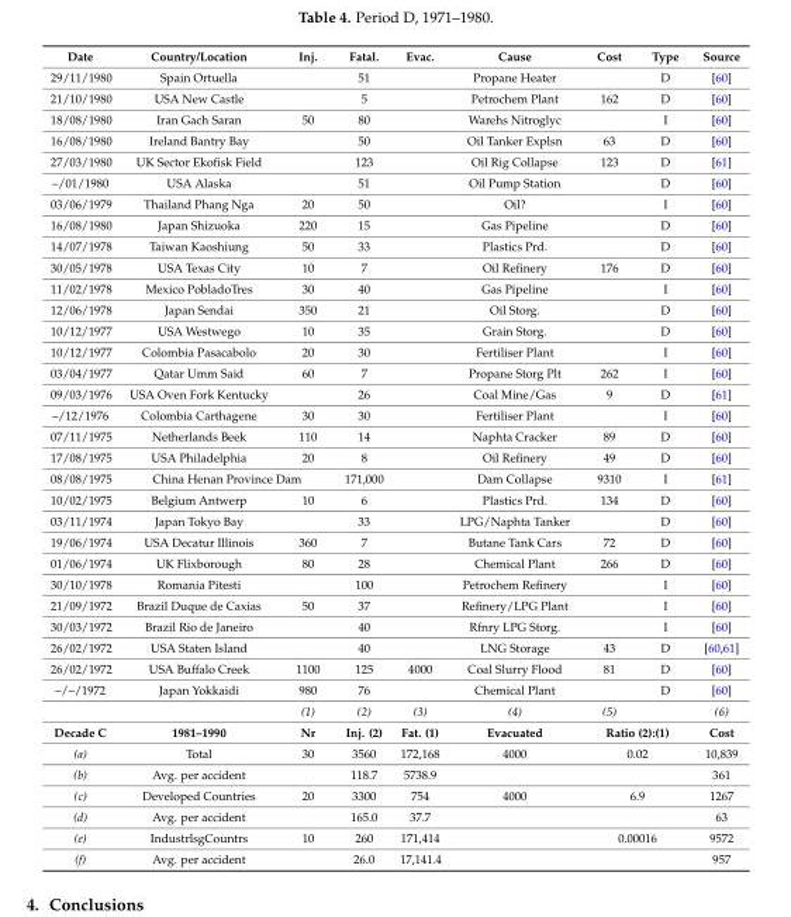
<table><tbody><tr><td>Date</td><td>Country/Location</td><td>Inj.</td><td>Fatal.</td><td>Evac.</td><td>Cause</td><td>Cost</td><td>Type</td><td>Source</td></tr><tr><td>29/11/1980</td><td>Spain Ortuella</td><td></td><td>51</td><td></td><td>Propane Heater</td><td></td><td>D</td><td>[60]</td></tr><tr><td>21/10/1980</td><td>USA New Castle</td><td></td><td>5</td><td></td><td>Petrochem Plant</td><td>162</td><td>D</td><td>[60]</td></tr><tr><td>18/08/1980</td><td>Iran Gach Saran</td><td>50</td><td>80</td><td></td><td>Warehs Nitroglyc</td><td></td><td>I</td><td>[60]</td></tr><tr><td>16/08/1980</td><td>Ireland Bantry Bay</td><td></td><td>50</td><td></td><td>Oil Tanker Explsn</td><td>63</td><td>D</td><td>[60]</td></tr><tr><td>27/03/1980</td><td>UK Sector Ekofisk Field</td><td></td><td>123</td><td></td><td>Oil Rig Collapse</td><td>123</td><td>D</td><td>[61]</td></tr><tr><td>–/01/1980</td><td>USA Alaska</td><td></td><td>51</td><td></td><td>Oil Pump Station</td><td></td><td>D</td><td>[60]</td></tr><tr><td>03/06/1979</td><td>Thailand Phang Nga</td><td>20</td><td>50</td><td></td><td>Oil?</td><td></td><td>I</td><td>[60]</td></tr><tr><td>16/08/1980</td><td>Japan Shizuoka</td><td>220</td><td>15</td><td></td><td>Gas Pipeline</td><td></td><td>D</td><td>[60]</td></tr><tr><td>14/07/1978</td><td>Taiwan Kaoshiung</td><td>50</td><td>33</td><td></td><td>Plastics Prd.</td><td></td><td>D</td><td>[60]</td></tr><tr><td>30/05/1978</td><td>USA Texas City</td><td>10</td><td>7</td><td></td><td>Oil Refinery</td><td>176</td><td>D</td><td>[60]</td></tr><tr><td>11/02/1978</td><td>Mexico PobladoTres</td><td>30</td><td>40</td><td></td><td>Gas Pipeline</td><td></td><td>I</td><td>[60]</td></tr><tr><td>12/06/1978</td><td>Japan Sendai</td><td>350</td><td>21</td><td></td><td>Oil Storg.</td><td></td><td>D</td><td>[60]</td></tr><tr><td>10/12/1977</td><td>USA Westwego</td><td>10</td><td>35</td><td></td><td>Grain Storg.</td><td></td><td>D</td><td>[60]</td></tr><tr><td>10/12/1977</td><td>Colombia Pasacabolo</td><td>20</td><td>30</td><td></td><td>Fertiliser Plant</td><td></td><td>I</td><td>[60]</td></tr><tr><td>03/04/1977</td><td>Qatar Umm Said</td><td>60</td><td>7</td><td></td><td>Propane Storg Plt</td><td>262</td><td>I</td><td>[60]</td></tr><tr><td>09/03/1976</td><td>USA Oven Fork Kentucky</td><td></td><td>26</td><td></td><td>Coal Mine/Gas</td><td>9</td><td>D</td><td>[61]</td></tr><tr><td>–/12/1976</td><td>Colombia Carthagene</td><td>30</td><td>30</td><td></td><td>Fertiliser Plant</td><td></td><td>I</td><td>[60]</td></tr><tr><td>07/11/1975</td><td>Netherlands Beek</td><td>110</td><td>14</td><td></td><td>Naphta Cracker</td><td>89</td><td>D</td><td>[60]</td></tr><tr><td>17/08/1975</td><td>USA Philadelphia</td><td>20</td><td>8</td><td></td><td>Oil Refinery</td><td>49</td><td>D</td><td>[60]</td></tr><tr><td>08/08/1975</td><td colspan="2">China Henan Province Dam</td><td>171,000</td><td></td><td>Dam Collapse</td><td>9310</td><td>I</td><td>[61]</td></tr><tr><td>10/02/1975</td><td>Belgium Antwerp</td><td>10</td><td>6</td><td></td><td>Plastics Prd.</td><td>134</td><td>D</td><td>[60]</td></tr><tr><td>03/11/1974</td><td>Japan Tokyo Bay</td><td></td><td>33</td><td></td><td>LPG/Naphta Tanker</td><td></td><td>D</td><td>[60]</td></tr><tr><td>19/06/1974</td><td>USA Decatur Illinois</td><td>360</td><td>7</td><td></td><td>Butane Tank Cars</td><td>72</td><td>D</td><td>[60]</td></tr><tr><td>01/06/1974</td><td>UK Flixborough</td><td>80</td><td>28</td><td></td><td>Chemical Plant</td><td>266</td><td>D</td><td>[60]</td></tr><tr><td>30/10/1978</td><td>Romania Pitesti</td><td></td><td>100</td><td></td><td>Petrochem Refinery</td><td></td><td>I</td><td>[60]</td></tr><tr><td>21/09/1972</td><td>Brazil Duque de Caxias</td><td>50</td><td>37</td><td></td><td>Refinery/LPG Plant</td><td></td><td>I</td><td>[60]</td></tr><tr><td>30/03/1972</td><td>Brazil Rio de Janeiro</td><td></td><td>40</td><td></td><td>Rfnry LPG Storg.</td><td></td><td>I</td><td>[60]</td></tr><tr><td>26/02/1972</td><td>USA Staten Island</td><td></td><td>40</td><td></td><td>LNG Storage</td><td>43</td><td>D</td><td>[60,61]</td></tr><tr><td>26/02/1972</td><td>USA Buffalo Creek</td><td>1100</td><td>125</td><td>4000</td><td>Coal Slurry Flood</td><td>81</td><td>D</td><td>[60]</td></tr><tr><td rowspan="2">–/–/1972</td><td>Japan Yokkaidi</td><td>980</td><td>76</td><td></td><td>Chemical Plant</td><td></td><td>D</td><td>[60]</td></tr><tr><td></td><td>(1)</td><td>(2)</td><td>(3)</td><td>(4)</td><td>(5)</td><td></td><td>(6)</td></tr><tr><td>Decade C</td><td>1981–1990</td><td>Nr</td><td>Inj. (2)</td><td>Fat. (1)</td><td>Evacuated</td><td colspan="2">Ratio (2):(1)</td><td>Cost</td></tr><tr><td>(a)</td><td>Total</td><td>30</td><td>3560</td><td>172,168</td><td>4000</td><td colspan="2">0.02</td><td>10,839</td></tr><tr><td>(b)</td><td>Avg. per accident</td><td></td><td>118.7</td><td>5738.9</td><td></td><td colspan="2"></td><td>361</td></tr><tr><td>(c)</td><td>Developed Countries</td><td>20</td><td>3300</td><td>754</td><td>4000</td><td colspan="2">6.9</td><td>1267</td></tr><tr><td>(d)</td><td>Avg. per accident</td><td></td><td>165.0</td><td>37.7</td><td></td><td colspan="2"></td><td>63</td></tr><tr><td>(e)</td><td>IndustrlsgCountrs</td><td>10</td><td>260</td><td>171,414</td><td></td><td colspan="2">0.00016</td><td>9572</td></tr><tr><td>(f)</td><td>Avg. per accident</td><td></td><td>26.0</td><td>17,141.4</td><td></td><td colspan="2"></td><td>957</td></tr></tbody></table>